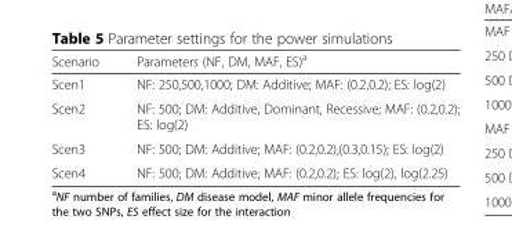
<table><thead><tr><td>Scenario</td><td>Parameters (NF, DM, MAF, ES)<sup>a</sup></td></tr></thead><tbody><tr><td>Scen1</td><td>NF: 250,500,1000; DM: Additive; MAF: (0.2,0.2); ES: log(2)</td></tr><tr><td>Scen2</td><td>NF: 500; DM: Additive, Dominant, Recessive; MAF: (0.2,0.2); ES: log(2)</td></tr><tr><td>Scen3</td><td>NF: 500; DM: Additive; MAF: (0.2,0.2),(0.3,0.15); ES: log(2)</td></tr><tr><td>Scen4</td><td>NF: 500; DM: Additive; MAF: (0.2,0.2); ES: log(2), log(2.25)</td></tr></tbody></table>